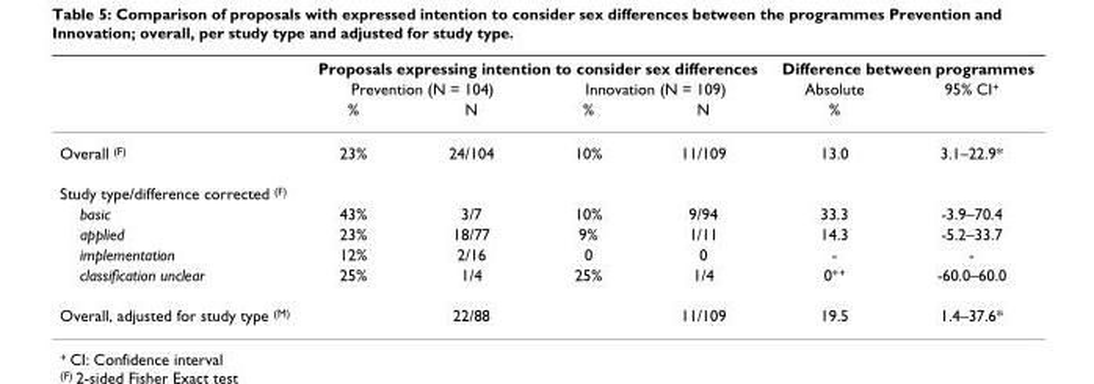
<table><thead><tr><td rowspan="3"></td><td colspan="4">Proposals expressing intention to consider sex differences</td><td colspan="2">Difference between programmes</td></tr><tr><td colspan="2">Prevention (N = 104)</td><td colspan="2">Innovation (N = 109)</td><td rowspan="2">Absolute %</td><td rowspan="2">95% CI<sup>+</sup></td></tr><tr><td>%</td><td>N</td><td>%</td><td>N</td></tr></thead><tbody><tr><td>Overall <sup>(F)</sup></td><td>23%</td><td>24/104</td><td>10%</td><td>11/109</td><td>13.0</td><td>3.1–22.9*</td></tr><tr><td colspan="7">Study type/difference corrected <sup>(F)</sup></td></tr><tr><td>basic</td><td>43%</td><td>3/7</td><td>10%</td><td>9/94</td><td>33.3</td><td>-3.9–70.4</td></tr><tr><td>applied</td><td>23%</td><td>18/77</td><td>9%</td><td>1/11</td><td>14.3</td><td>-5.2–33.7</td></tr><tr><td>implementation</td><td>12%</td><td>2/16</td><td>0</td><td>0</td><td>-</td><td>-</td></tr><tr><td>classification unclear</td><td>25%</td><td>1/4</td><td>25%</td><td>1/4</td><td>0<sup>++</sup></td><td>-60.0–60.0</td></tr><tr><td>Overall, adjusted for study type <sup>(M)</sup></td><td></td><td>22/88</td><td></td><td>11/109</td><td>19.5</td><td>1.4–37.6*</td></tr></tbody></table>